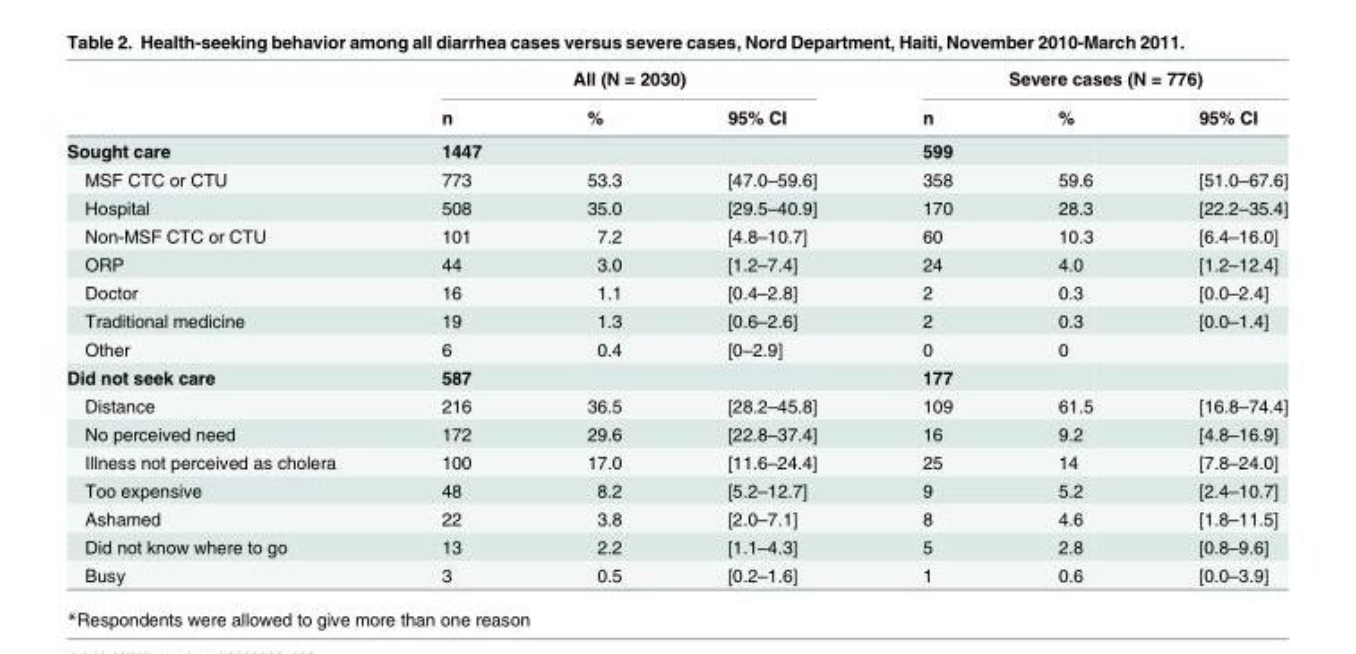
<table><thead><tr><td rowspan="2"></td><td colspan="3">All (N = 2030)</td><td colspan="3">Severe cases (N = 776)</td></tr><tr><td>n</td><td>%</td><td>95% CI</td><td>n</td><td>%</td><td>95% CI</td></tr></thead><tbody><tr><td>Sought care</td><td>1447</td><td></td><td></td><td>599</td><td></td><td></td></tr><tr><td>MSF CTC or CTU</td><td>773</td><td>53.3</td><td>[47.0–59.6]</td><td>358</td><td>59.6</td><td>[51.0–67.6]</td></tr><tr><td>Hospital</td><td>508</td><td>35.0</td><td>[29.5–40.9]</td><td>170</td><td>28.3</td><td>[22.2–35.4]</td></tr><tr><td>Non-MSF CTC or CTU</td><td>101</td><td>7.2</td><td>[4.8–10.7]</td><td>60</td><td>10.3</td><td>[6.4–16.0]</td></tr><tr><td>ORP</td><td>44</td><td>3.0</td><td>[1.2–7.4]</td><td>24</td><td>4.0</td><td>[1.2–12.4]</td></tr><tr><td>Doctor</td><td>16</td><td>1.1</td><td>[0.4–2.8]</td><td>2</td><td>0.3</td><td>[0.0–2.4]</td></tr><tr><td>Traditional medicine</td><td>19</td><td>1.3</td><td>[0.6–2.6]</td><td>2</td><td>0.3</td><td>[0.0–1.4]</td></tr><tr><td>Other</td><td>6</td><td>0.4</td><td>[0–2.9]</td><td>0</td><td>0</td><td></td></tr><tr><td>Did not seek care</td><td>587</td><td></td><td></td><td>177</td><td></td><td></td></tr><tr><td>Distance</td><td>216</td><td>36.5</td><td>[28.2–45.8]</td><td>109</td><td>61.5</td><td>[16.8–74.4]</td></tr><tr><td>No perceived need</td><td>172</td><td>29.6</td><td>[22.8–37.4]</td><td>16</td><td>9.2</td><td>[4.8–16.9]</td></tr><tr><td>Illness not perceived as cholera</td><td>100</td><td>17.0</td><td>[11.6–24.4]</td><td>25</td><td>14</td><td>[7.8–24.0]</td></tr><tr><td>Too expensive</td><td>48</td><td>8.2</td><td>[5.2–12.7]</td><td>9</td><td>5.2</td><td>[2.4–10.7]</td></tr><tr><td>Ashamed</td><td>22</td><td>3.8</td><td>[2.0–7.1]</td><td>8</td><td>4.6</td><td>[1.8–11.5]</td></tr><tr><td>Did not know where to go</td><td>13</td><td>2.2</td><td>[1.1–4.3]</td><td>5</td><td>2.8</td><td>[0.8–9.6]</td></tr><tr><td>Busy</td><td>3</td><td>0.5</td><td>[0.2–1.6]</td><td>1</td><td>0.6</td><td>[0.0–3.9]</td></tr></tbody></table>